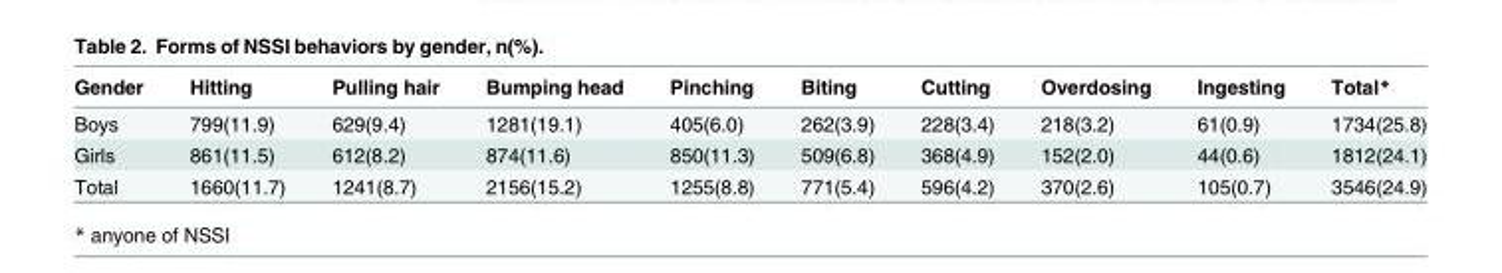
<table><thead><tr><td>Gender</td><td>Hitting</td><td>Pulling hair</td><td>Bumping head</td><td>Pinching</td><td>Biting</td><td>Cutting</td><td>Overdosing</td><td>Ingesting</td><td>Total*</td></tr></thead><tbody><tr><td>Boys</td><td>799(11.9)</td><td>629(9.4)</td><td>1281(19.1)</td><td>405(6.0)</td><td>262(3.9)</td><td>228(3.4)</td><td>218(3.2)</td><td>61(0.9)</td><td>1734(25.8)</td></tr><tr><td>Girls</td><td>861(11.5)</td><td>612(8.2)</td><td>874(11.6)</td><td>850(11.3)</td><td>509(6.8)</td><td>368(4.9)</td><td>152(2.0)</td><td>44(0.6)</td><td>1812(24.1)</td></tr><tr><td>Total</td><td>1660(11.7)</td><td>1241(8.7)</td><td>2156(15.2)</td><td>1255(8.8)</td><td>771(5.4)</td><td>596(4.2)</td><td>370(2.6)</td><td>105(0.7)</td><td>3546(24.9)</td></tr></tbody></table>